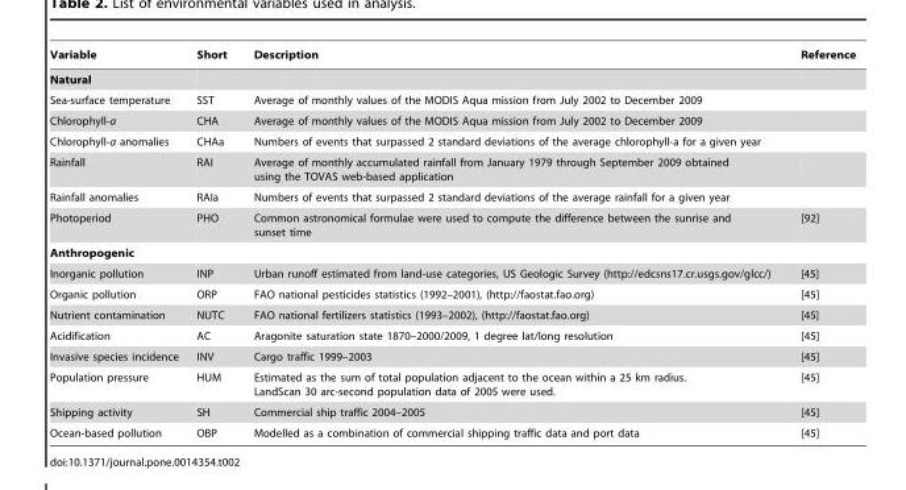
<table><thead><tr><td>Variable</td><td>Short</td><td>Description</td><td>Reference</td></tr></thead><tbody><tr><td colspan="4">Natural</td></tr><tr><td>Sea-surface temperature</td><td>SST</td><td>Average of monthly values of the MODIS Aqua mission from July 2002 to December 2009</td><td></td></tr><tr><td>Chlorophyll-a</td><td>CHA</td><td>Average of monthly values of the MODIS Aqua mission from July 2002 to December 2009</td><td></td></tr><tr><td>Chlorophyll-a anomalies</td><td>CHAa</td><td>Numbers of events that surpassed 2 standard deviations of the average chlorophyll-a for a given year</td><td></td></tr><tr><td>Rainfall</td><td>RAI</td><td>Average of monthly accumulated rainfall from January 1979 through September 2009 obtained using the TOVAS web-based application</td><td></td></tr><tr><td>Rainfall anomalies</td><td>RAIa</td><td>Numbers of events that surpassed 2 standard deviations of the average rainfall for a given year</td><td></td></tr><tr><td>Photoperiod</td><td>PHO</td><td>Common astronomical formulae were used to compute the difference between the sunrise and sunset time</td><td>[92]</td></tr><tr><td colspan="4">Anthropogenic</td></tr><tr><td>Inorganic pollution</td><td>INP</td><td>Urban runoff estimated from land-use categories, US Geologic Survey (http://edcsns17.cr.usgs.gov/glcc/)</td><td>[45]</td></tr><tr><td>Organic pollution</td><td>ORP</td><td>FAO national pesticides statistics (1992–2001), (http://faostat.fao.org)</td><td>[45]</td></tr><tr><td>Nutrient contamination</td><td>NUTC</td><td>FAO national fertilizers statistics (1993–2002), (http://faostat.fao.org)</td><td>[45]</td></tr><tr><td>Acidification</td><td>AC</td><td>Aragonite saturation state 1870–2000/2009, 1 degree lat/long resolution</td><td>[45]</td></tr><tr><td>Invasive species incidence</td><td>INV</td><td>Cargo traffic 1999–2003</td><td>[45]</td></tr><tr><td>Population pressure</td><td>HUM</td><td>Estimated as the sum of total population adjacent to the ocean within a 25 km radius. LandScan 30 arc-second population data of 2005 were used.</td><td>[45]</td></tr><tr><td>Shipping activity</td><td>SH</td><td>Commercial ship traffic 2004–2005</td><td>[45]</td></tr><tr><td>Ocean-based pollution</td><td>OBP</td><td>Modelled as a combination of commercial shipping traffic data and port data</td><td>[45]</td></tr></tbody></table>